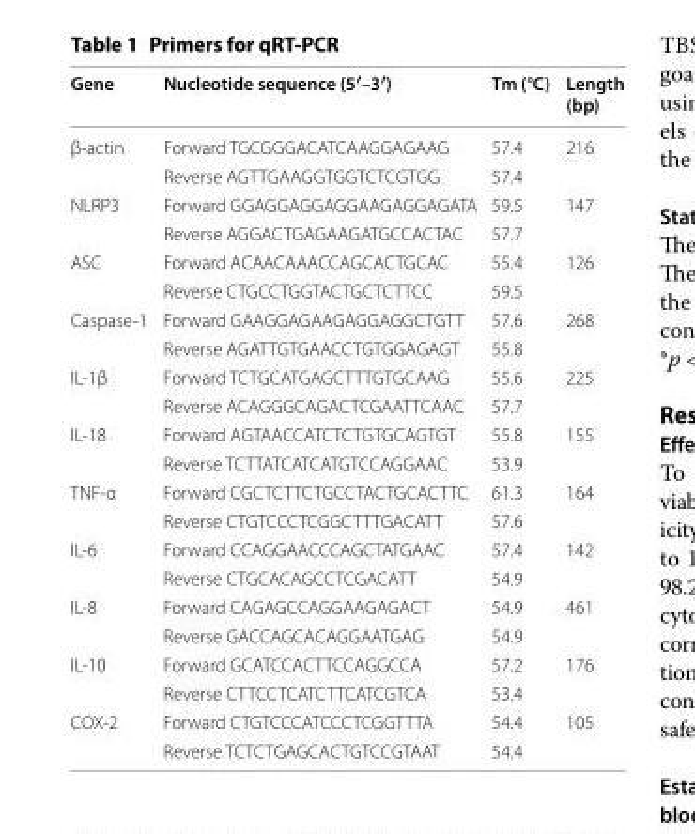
<table><thead><tr><td>Gene</td><td>Nucleotide sequence (5′–3′)</td><td>Tm (°C)</td><td>Length (bp)</td></tr></thead><tbody><tr><td rowspan="2">β‑actin</td><td>Forward TGCGGGACATCAAGGAGAAG</td><td>57.4</td><td rowspan="2">216</td></tr><tr><td>Reverse AGTTGAAGGTGGTCTCGTGG</td><td>57.4</td></tr><tr><td rowspan="2">NLRP3</td><td>Forward GGAGGAGGAGGAAGAGGAGATA</td><td>59.5</td><td rowspan="2">147</td></tr><tr><td>Reverse AGGACTGAGAAGATGCCACTAC</td><td>57.7</td></tr><tr><td rowspan="2">ASC</td><td>Forward ACAACAAACCAGCACTGCAC</td><td>55.4</td><td rowspan="2">126</td></tr><tr><td>Reverse CTGCCTGGTACTGCTCTTCC</td><td>59.5</td></tr><tr><td rowspan="2">Caspase‑1</td><td>Forward GAAGGAGAAGAGGAGGCTGTT</td><td>57.6</td><td rowspan="2">268</td></tr><tr><td>Reverse AGATTGTGAACCTGTGGAGAGT</td><td>55.8</td></tr><tr><td rowspan="2">IL‑1β</td><td>Forward TCTGCATGAGCTTTGTGCAAG</td><td>55.6</td><td rowspan="2">225</td></tr><tr><td>Reverse ACAGGGCAGACTCGAATTCAAC</td><td>57.7</td></tr><tr><td rowspan="2">IL‑18</td><td>Forward AGTAACCATCTCTGTGCAGTGT</td><td>55.8</td><td rowspan="2">155</td></tr><tr><td>Reverse TCTTATCATCATGTCCAGGAAC</td><td>53.9</td></tr><tr><td rowspan="2">TNF‑α</td><td>Forward CGCTCTTCTGCCTACTGCACTTC</td><td>61.3</td><td rowspan="2">164</td></tr><tr><td>Reverse CTGTCCCTCGGCTTTGACATT</td><td>57.6</td></tr><tr><td rowspan="2">IL‑6</td><td>Forward CCAGGAACCCAGCTATGAAC</td><td>57.4</td><td rowspan="2">142</td></tr><tr><td>Reverse CTGCACAGCCTCGACATT</td><td>54.9</td></tr><tr><td rowspan="2">IL‑8</td><td>Forward CAGAGCCAGGAAGAGACT</td><td>54.9</td><td rowspan="2">461</td></tr><tr><td>Reverse GACCAGCACAGGAATGAG</td><td>54.9</td></tr><tr><td rowspan="2">IL‑10</td><td>Forward GCATCCACTTCCAGGCCA</td><td>57.2</td><td rowspan="2">176</td></tr><tr><td>Reverse CTTCCTCATCTTCATCGTCA</td><td>53.4</td></tr><tr><td rowspan="2">COX‑2</td><td>Forward CTGTCCCATCCCTCGGTTTA</td><td>54.4</td><td rowspan="2">105</td></tr><tr><td>Reverse TCTCTGAGCACTGTCCGTAAT</td><td>54.4</td></tr></tbody></table>